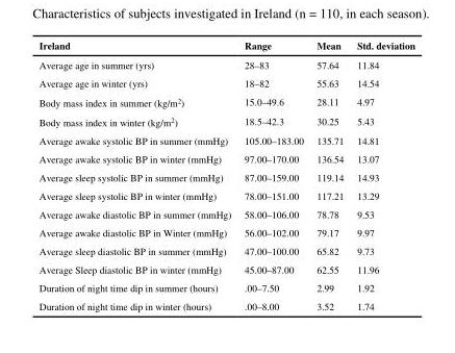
<table><thead><tr><td>Ireland</td><td>Range</td><td>Mean</td><td>Std. deviation</td></tr></thead><tbody><tr><td>Average age in summer (yrs)</td><td>28–83</td><td>57.64</td><td>11.84</td></tr><tr><td>Average age in winter (yrs)</td><td>18–82</td><td>55.63</td><td>14.54</td></tr><tr><td>Body mass index in summer (kg/m<sup>2</sup>)</td><td>15.0–49.6</td><td>28.11</td><td>4.97</td></tr><tr><td>Body mass index in winter (kg/m<sup>2</sup>)</td><td>18.5–42.3</td><td>30.25</td><td>5.43</td></tr><tr><td>Average awake systolic BP in summer (mmHg)</td><td>105.00–183.00</td><td>135.71</td><td>14.81</td></tr><tr><td>Average awake systolic BP in winter (mmHg)</td><td>97.00–170.00</td><td>136.54</td><td>13.07</td></tr><tr><td>Average sleep systolic BP in summer (mmHg)</td><td>87.00–159.00</td><td>119.14</td><td>14.93</td></tr><tr><td>Average sleep systolic BP in winter (mmHg)</td><td>78.00–151.00</td><td>117.21</td><td>13.29</td></tr><tr><td>Average awake diastolic BP in summer (mmHg)</td><td>58.00–106.00</td><td>78.78</td><td>9.53</td></tr><tr><td>Average awake diastolic BP in Winter (mmHg)</td><td>56.00–102.00</td><td>79.17</td><td>9.97</td></tr><tr><td>Average sleep diastolic BP in summer (mmHg)</td><td>47.00–100.00</td><td>65.82</td><td>9.73</td></tr><tr><td>Average Sleep diastolic BP in winter (mmHg)</td><td>45.00–87.00</td><td>62.55</td><td>11.96</td></tr><tr><td>Duration of night time dip in summer (hours)</td><td>.00–7.50</td><td>2.99</td><td>1.92</td></tr><tr><td>Duration of night time dip in winter (hours)</td><td>.00–8.00</td><td>3.52</td><td>1.74</td></tr></tbody></table>